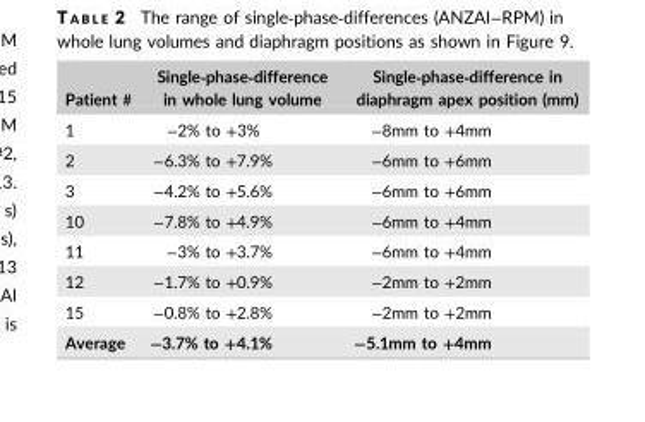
<table><thead><tr><td>Patient #</td><td>Single‐phase‐difference in whole lung volume</td><td>Single‐phase‐difference in diaphragm apex position (mm)</td></tr></thead><tbody><tr><td>1</td><td>−2% to +3%</td><td>−8mm to +4mm</td></tr><tr><td>2</td><td>−6.3% to +7.9%</td><td>−6mm to +6mm</td></tr><tr><td>3</td><td>−4.2% to +5.6%</td><td>−6mm to +6mm</td></tr><tr><td>10</td><td>−7.8% to +4.9%</td><td>−6mm to +4mm</td></tr><tr><td>11</td><td>−3% to +3.7%</td><td>−6mm to +4mm</td></tr><tr><td>12</td><td>−1.7% to +0.9%</td><td>−2mm to +2mm</td></tr><tr><td>15</td><td>−0.8% to +2.8%</td><td>−2mm to +2mm</td></tr><tr><td>Average</td><td>−3.7% to +4.1%</td><td>−5.1mm to +4mm</td></tr></tbody></table>